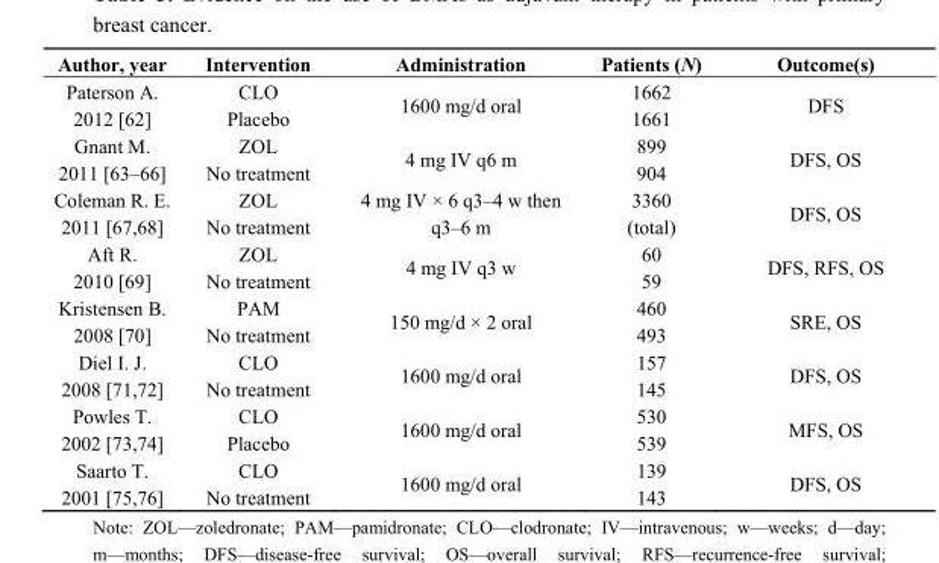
<table><thead><tr><td>Author, year</td><td>Intervention</td><td>Administration</td><td>Patients (N)</td><td>Outcome(s)</td></tr></thead><tbody><tr><td>Paterson A. 2012 [62]</td><td>CLO Placebo</td><td>1600 mg/d oral</td><td>1662 1661</td><td>DFS</td></tr><tr><td>Gnant M. 2011 [63–66]</td><td>ZOL No treatment</td><td>4 mg IV q6 m</td><td>899 904</td><td>DFS, OS</td></tr><tr><td>Coleman R. E. 2011 [67,68]</td><td>ZOL No treatment</td><td>4 mg IV × 6 q3–4 w then q3–6 m</td><td>3360 (total)</td><td>DFS, OS</td></tr><tr><td>Aft R. 2010 [69]</td><td>ZOL No treatment</td><td>4 mg IV q3 w</td><td>60 59</td><td>DFS, RFS, OS</td></tr><tr><td>Kristensen B. 2008 [70]</td><td>PAM No treatment</td><td>150 mg/d × 2 oral</td><td>460 493</td><td>SRE, OS</td></tr><tr><td>Diel I. J. 2008 [71,72]</td><td>CLO No treatment</td><td>1600 mg/d oral</td><td>157 145</td><td>DFS, OS</td></tr><tr><td>Powles T. 2002 [73,74]</td><td>CLO Placebo</td><td>1600 mg/d oral</td><td>530 539</td><td>MFS, OS</td></tr><tr><td>Saarto T. 2001 [75,76]</td><td>CLO No treatment</td><td>1600 mg/d oral</td><td>139 143</td><td>DFS, OS</td></tr></tbody></table>